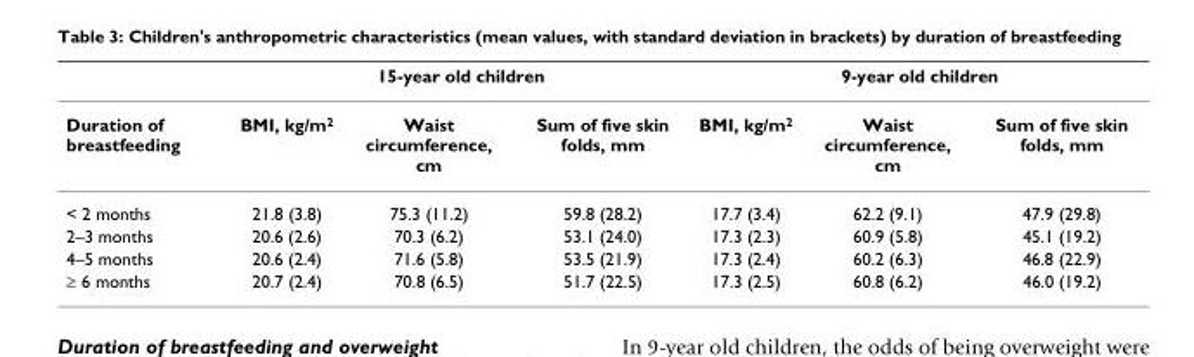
<table><thead><tr><td rowspan="2">Duration of breastfeeding</td><td colspan="3">15-year old children</td><td colspan="3">9-year old children</td></tr><tr><td>BMI, kg/m<sup>2</sup></td><td>Waist circumference, cm</td><td>Sum of five skin folds, mm</td><td>BMI, kg/m<sup>2</sup></td><td>Waist circumference, cm</td><td>Sum of five skin folds, mm</td></tr></thead><tbody><tr><td>&lt; 2 months</td><td>21.8 (3.8)</td><td>75.3 (11.2)</td><td>59.8 (28.2)</td><td>17.7 (3.4)</td><td>62.2 (9.1)</td><td>47.9 (29.8)</td></tr><tr><td>2–3 months</td><td>20.6 (2.6)</td><td>70.3 (6.2)</td><td>53.1 (24.0)</td><td>17.3 (2.3)</td><td>60.9 (5.8)</td><td>45.1 (19.2)</td></tr><tr><td>4–5 months</td><td>20.6 (2.4)</td><td>71.6 (5.8)</td><td>53.5 (21.9)</td><td>17.3 (2.4)</td><td>60.2 (6.3)</td><td>46.8 (22.9)</td></tr><tr><td>≥ 6 months</td><td>20.7 (2.4)</td><td>70.8 (6.5)</td><td>51.7 (22.5)</td><td>17.3 (2.5)</td><td>60.8 (6.2)</td><td>46.0 (19.2)</td></tr></tbody></table>